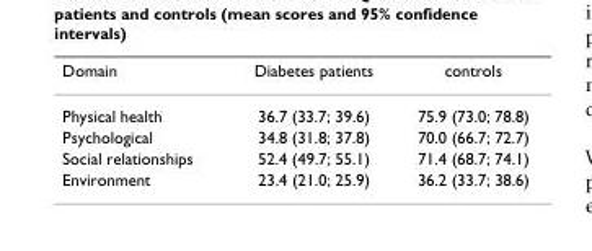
<table><thead><tr><td>Domain</td><td>Diabetes patients</td><td>controls</td></tr></thead><tbody><tr><td>Physical health</td><td>36.7 (33.7; 39.6)</td><td>75.9 (73.0; 78.8)</td></tr><tr><td>Psychological</td><td>34.8 (31.8; 37.8)</td><td>70.0 (66.7; 72.7)</td></tr><tr><td>Social relationships</td><td>52.4 (49.7; 55.1)</td><td>71.4 (68.7; 74.1)</td></tr><tr><td>Environment</td><td>23.4 (21.0; 25.9)</td><td>36.2 (33.7; 38.6)</td></tr></tbody></table>